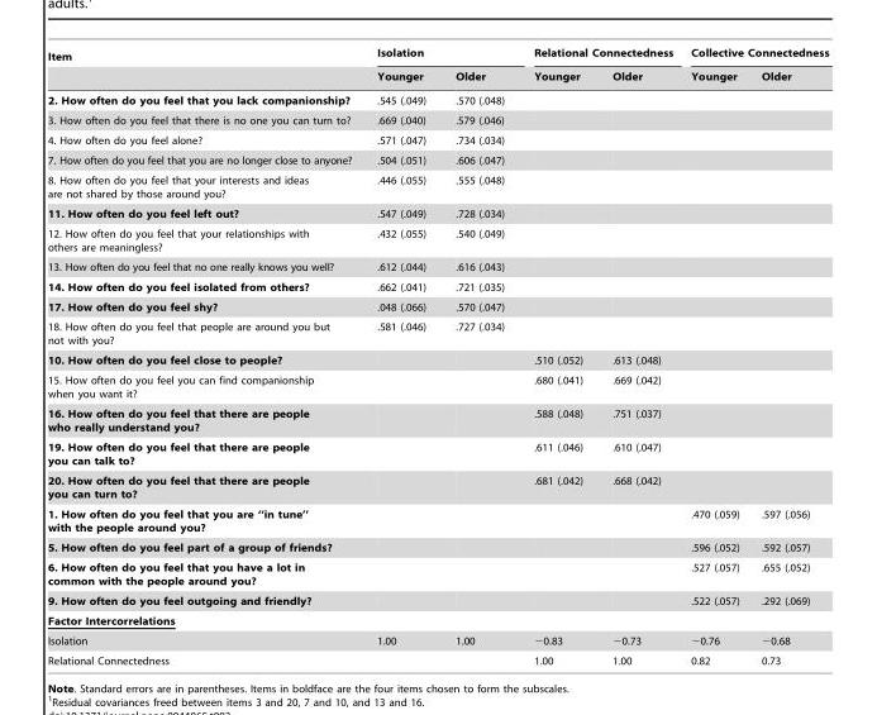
<table><thead><tr><td rowspan="2">Item</td><td colspan="2">Isolation</td><td colspan="2">Relational Connectedness</td><td colspan="2">Collective Connectedness</td></tr><tr><td>Younger</td><td>Older</td><td>Younger</td><td>Older</td><td>Younger</td><td>Older</td></tr></thead><tbody><tr><td>2. How often do you feel that you lack companionship?</td><td>.545 (.049)</td><td>.570 (.048)</td><td></td><td></td><td></td><td></td></tr><tr><td>3. How often do you feel that there is no one you can turn to?</td><td>.669 (.040)</td><td>.579 (.046)</td><td></td><td></td><td></td><td></td></tr><tr><td>4. How often do you feel alone?</td><td>.571 (.047)</td><td>.734 (.034)</td><td></td><td></td><td></td><td></td></tr><tr><td>7. How often do you feel that you are no longer close to anyone?</td><td>.504 (.051)</td><td>.606 (.047)</td><td></td><td></td><td></td><td></td></tr><tr><td>8. How often do you feel that your interests and ideas are not shared by those around you?</td><td>.446 (.055)</td><td>.555 (.048)</td><td></td><td></td><td></td><td></td></tr><tr><td>11. How often do you feel left out?</td><td>.547 (.049)</td><td>.728 (.034)</td><td></td><td></td><td></td><td></td></tr><tr><td>12. How often do you feel that your relationships with others are meaningless?</td><td>.432 (.055)</td><td>.540 (.049)</td><td></td><td></td><td></td><td></td></tr><tr><td>13. How often do you feel that no one really knows you well?</td><td>.612 (.044)</td><td>.616 (.043)</td><td></td><td></td><td></td><td></td></tr><tr><td>14. How often do you feel isolated from others?</td><td>.662 (.041)</td><td>.721 (.035)</td><td></td><td></td><td></td><td></td></tr><tr><td>17. How often do you feel shy?</td><td>.048 (.066)</td><td>.570 (.047)</td><td></td><td></td><td></td><td></td></tr><tr><td>18. How often do you feel that people are around you but not with you?</td><td>.581 (.046)</td><td>.727 (.034)</td><td></td><td></td><td></td><td></td></tr><tr><td>10. How often do you feel close to people?</td><td></td><td></td><td>.510 (.052)</td><td>.613 (.048)</td><td></td><td></td></tr><tr><td>15. How often do you feel you can find companionship when you want it?</td><td></td><td></td><td>.680 (.041)</td><td>.669 (.042)</td><td></td><td></td></tr><tr><td>16. How often do you feel that there are people who really understand you?</td><td></td><td></td><td>.588 (.048)</td><td>.751 (.037)</td><td></td><td></td></tr><tr><td>19. How often do you feel that there are people you can talk to?</td><td></td><td></td><td>.611 (.046)</td><td>.610 (.047)</td><td></td><td></td></tr><tr><td>20. How often do you feel that there are people you can turn to?</td><td></td><td></td><td>.681 (.042)</td><td>.668 (.042)</td><td></td><td></td></tr><tr><td>1. How often do you feel that you are ‘‘in tune’’ with the people around you?</td><td></td><td></td><td></td><td></td><td>.470 (.059)</td><td>.597 (.056)</td></tr><tr><td>5. How often do you feel part of a group of friends?</td><td></td><td></td><td></td><td></td><td>.596 (.052)</td><td>.592 (.057)</td></tr><tr><td>6. How often do you feel that you have a lot in common with the people around you?</td><td></td><td></td><td></td><td></td><td>.527 (.057)</td><td>.655 (.052)</td></tr><tr><td>9. How often do you feel outgoing and friendly?</td><td></td><td></td><td></td><td></td><td>.522 (.057)</td><td>.292 (.069)</td></tr><tr><td colspan="7">Factor Intercorrelations</td></tr><tr><td>Isolation</td><td>1.00</td><td>1.00</td><td>−0.83</td><td>−0.73</td><td>−0.76</td><td>−0.68</td></tr><tr><td>Relational Connectedness</td><td></td><td></td><td>1.00</td><td>1.00</td><td>0.82</td><td>0.73</td></tr></tbody></table>